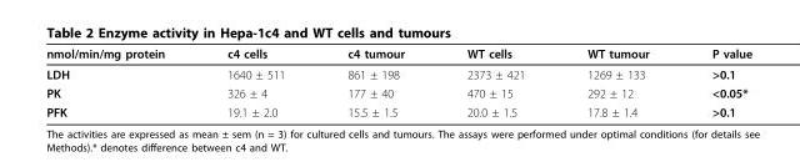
<table><thead><tr><td>nmol/min/mg protein</td><td>c4 cells</td><td>c4 tumour</td><td>WT cells</td><td>WT tumour</td><td>P value</td></tr></thead><tbody><tr><td>LDH</td><td>1640 ± 511</td><td>861 ± 198</td><td>2373 ± 421</td><td>1269 ± 133</td><td>&gt;0.1</td></tr><tr><td>PK</td><td>326 ± 4</td><td>177 ± 40</td><td>470 ± 15</td><td>292 ± 12</td><td>&lt;0.05*</td></tr><tr><td>PFK</td><td>19.1 ± 2.0</td><td>15.5 ± 1.5</td><td>20.0 ± 1.5</td><td>17.8 ± 1.4</td><td>&gt;0.1</td></tr></tbody></table>